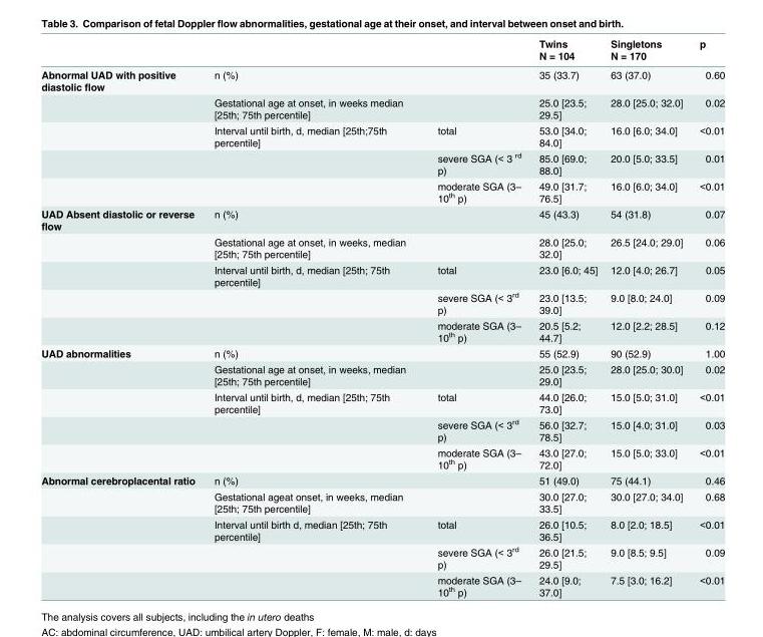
<table><thead><tr><td></td><td></td><td></td><td>Twins N = 104</td><td>Singletons N = 170</td><td>p</td></tr></thead><tbody><tr><td rowspan="5">Abnormal UAD with positive diastolic flow</td><td>n (%)</td><td></td><td>35 (33.7)</td><td>63 (37.0)</td><td>0.60</td></tr><tr><td>Gestational age at onset, in weeks median [25th; 75th percentile]</td><td></td><td>25.0 [23.5; 29.5]</td><td>28.0 [25.0; 32.0]</td><td>0.02</td></tr><tr><td>Interval until birth, d, median [25th;75th percentile]</td><td>total</td><td>53.0 [34.0; 84.0]</td><td>16.0 [6.0; 34.0]</td><td>&lt;0.01</td></tr><tr><td></td><td>severe SGA (&lt; 3 <sup>rd</sup> p)</td><td>85.0 [69.0; 88.0]</td><td>20.0 [5.0; 33.5]</td><td>0.01</td></tr><tr><td></td><td>moderate SGA (3– 10<sup>th</sup> p)</td><td>49.0 [31.7; 76.5]</td><td>16.0 [6.0; 34.0]</td><td>&lt;0.01</td></tr><tr><td rowspan="5">UAD Absent diastolic or reverse flow</td><td>n (%)</td><td></td><td>45 (43.3)</td><td>54 (31.8)</td><td>0.07</td></tr><tr><td>Gestational age at onset, in weeks, median [25th; 75th percentile]</td><td></td><td>28.0 [25.0; 32.0]</td><td>26.5 [24.0; 29.0]</td><td>0.06</td></tr><tr><td>Interval until birth, d, median [25th; 75th percentile]</td><td>total</td><td>23.0 [6.0; 45]</td><td>12.0 [4.0; 26.7]</td><td>0.05</td></tr><tr><td></td><td>severe SGA (&lt; 3<sup>rd</sup> p)</td><td>23.0 [13.5; 39.0]</td><td>9.0 [8.0; 24.0]</td><td>0.09</td></tr><tr><td></td><td>moderate SGA (3– 10<sup>th</sup> p)</td><td>20.5 [5.2; 44.7]</td><td>12.0 [2.2; 28.5]</td><td>0.12</td></tr><tr><td rowspan="5">UAD abnormalities</td><td>n (%)</td><td></td><td>55 (52.9)</td><td>90 (52.9)</td><td>1.00</td></tr><tr><td>Gestational age at onset, in weeks, median [25th; 75th percentile]</td><td></td><td>25.0 [23.5; 29.0]</td><td>28.0 [25.0; 30.0]</td><td>0.02</td></tr><tr><td>Interval until birth, d, median [25th; 75th percentile]</td><td>total</td><td>44.0 [26.0; 73.0]</td><td>15.0 [5.0; 31.0]</td><td>&lt;0.01</td></tr><tr><td></td><td>severe SGA (&lt; 3<sup>rd</sup> p)</td><td>56.0 [32.7; 78.5]</td><td>15.0 [4.0; 31.0]</td><td>0.03</td></tr><tr><td></td><td>moderate SGA (3– 10<sup>th</sup> p)</td><td>43.0 [27.0; 72.0]</td><td>15.0 [5.0; 33.0]</td><td>&lt;0.01</td></tr><tr><td rowspan="5">Abnormal cerebroplacental ratio</td><td>n (%)</td><td></td><td>51 (49.0)</td><td>75 (44.1)</td><td>0.46</td></tr><tr><td>Gestational ageat onset, in weeks, median [25th; 75th percentile]</td><td></td><td>30.0 [27.0; 33.5]</td><td>30.0 [27.0; 34.0]</td><td>0.68</td></tr><tr><td>Interval until birth d, median [25th; 75th percentile]</td><td>total</td><td>26.0 [10.5; 36.5]</td><td>8.0 [2.0; 18.5]</td><td>&lt;0.01</td></tr><tr><td></td><td>severe SGA (&lt; 3<sup>rd</sup> p)</td><td>26.0 [21.5; 29.5]</td><td>9.0 [8.5; 9.5]</td><td>0.09</td></tr><tr><td></td><td>moderate SGA (3– 10<sup>th</sup> p)</td><td>24.0 [9.0; 37.0]</td><td>7.5 [3.0; 16.2]</td><td>&lt;0.01</td></tr></tbody></table>